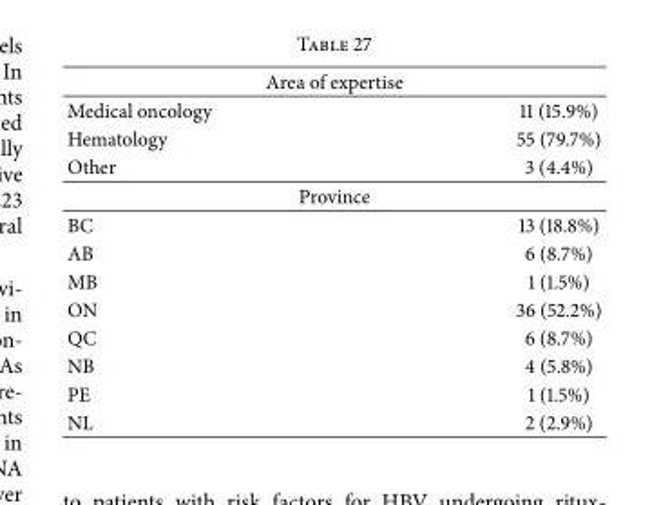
<table><tbody><tr><td colspan="2">Area of expertise</td></tr><tr><td>Medical oncology</td><td>11 (15.9%)</td></tr><tr><td>Hematology</td><td>55 (79.7%)</td></tr><tr><td>Other</td><td>3 (4.4%)</td></tr><tr><td colspan="2">Province</td></tr><tr><td>BC</td><td>13 (18.8%)</td></tr><tr><td>AB</td><td>6 (8.7%)</td></tr><tr><td>MB</td><td>1 (1.5%)</td></tr><tr><td>ON</td><td>36 (52.2%)</td></tr><tr><td>QC</td><td>6 (8.7%)</td></tr><tr><td>NB</td><td>4 (5.8%)</td></tr><tr><td>PE</td><td>1 (1.5%)</td></tr><tr><td>NL</td><td>2 (2.9%)</td></tr></tbody></table>